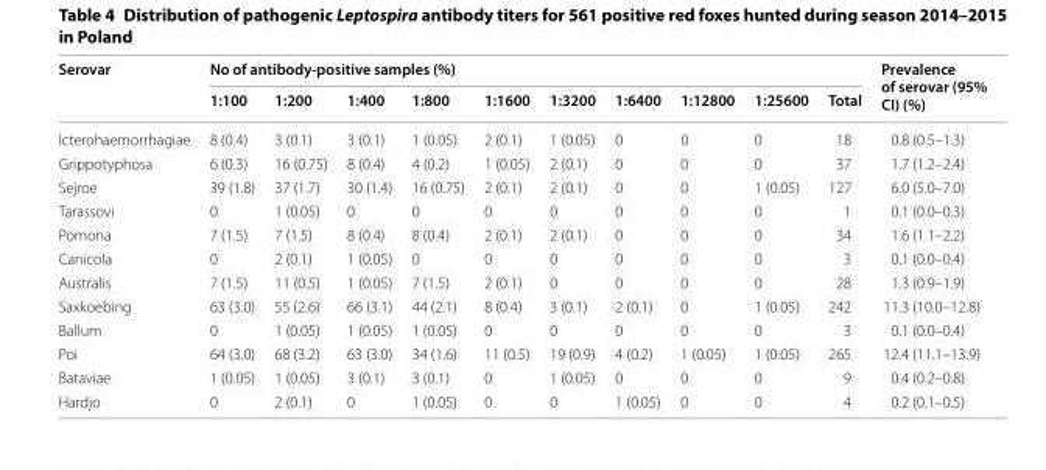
<table><thead><tr><td rowspan="2">Serovar</td><td colspan="10">No of antibody-positive samples (%)</td><td rowspan="2">Prevalence of serovar (95% CI) (%)</td></tr><tr><td>1:100</td><td>1:200</td><td>1:400</td><td>1:800</td><td>1:1600</td><td>1:3200</td><td>1:6400</td><td>1:12800</td><td>1:25600</td><td>Total</td></tr></thead><tbody><tr><td>Icterohaemorrhagiae</td><td>8 (0.4)</td><td>3 (0.1)</td><td>3 (0.1)</td><td>1 (0.05)</td><td>2 (0.1)</td><td>1 (0.05)</td><td>0</td><td>0</td><td>0</td><td>18</td><td>0.8 (0.5–1.3)</td></tr><tr><td>Grippotyphosa</td><td>6 (0.3)</td><td>16 (0.75)</td><td>8 (0.4)</td><td>4 (0.2)</td><td>1 (0.05)</td><td>2 (0.1)</td><td>0</td><td>0</td><td>0</td><td>37</td><td>1.7 (1.2–2.4)</td></tr><tr><td>Sejroe</td><td>39 (1.8)</td><td>37 (1.7)</td><td>30 (1.4)</td><td>16 (0.75)</td><td>2 (0.1)</td><td>2 (0.1)</td><td>0</td><td>0</td><td>1 (0.05)</td><td>127</td><td>6.0 (5.0–7.0)</td></tr><tr><td>Tarassovi</td><td>0</td><td>1 (0.05)</td><td>0</td><td>0</td><td>0</td><td>0</td><td>0</td><td>0</td><td>0</td><td>1</td><td>0.1 (0.0–0.3)</td></tr><tr><td>Pomona</td><td>7 (1.5)</td><td>7 (1.5)</td><td>8 (0.4)</td><td>8 (0.4)</td><td>2 (0.1)</td><td>2 (0.1)</td><td>0</td><td>0</td><td>0</td><td>34</td><td>1.6 (1.1–2.2)</td></tr><tr><td>Canicola</td><td>0</td><td>2 (0.1)</td><td>1 (0.05)</td><td>0</td><td>0</td><td>0</td><td>0</td><td>0</td><td>0</td><td>3</td><td>0.1 (0.0–0.4)</td></tr><tr><td>Australis</td><td>7 (1.5)</td><td>11 (0.5)</td><td>1 (0.05)</td><td>7 (1.5)</td><td>2 (0.1)</td><td>0</td><td>0</td><td>0</td><td>0</td><td>28</td><td>1.3 (0.9–1.9)</td></tr><tr><td>Saxkoebing</td><td>63 (3.0)</td><td>55 (2.6)</td><td>66 (3.1)</td><td>44 (2.1)</td><td>8 (0.4)</td><td>3 (0.1)</td><td>2 (0.1)</td><td>0</td><td>1 (0.05)</td><td>242</td><td>11.3 (10.0–12.8)</td></tr><tr><td>Ballum</td><td>0</td><td>1 (0.05)</td><td>1 (0.05)</td><td>1 (0.05)</td><td>0</td><td>0</td><td>0</td><td>0</td><td>0</td><td>3</td><td>0.1 (0.0–0.4)</td></tr><tr><td>Poi</td><td>64 (3.0)</td><td>68 (3.2)</td><td>63 (3.0)</td><td>34 (1.6)</td><td>11 (0.5)</td><td>19 (0.9)</td><td>4 (0.2)</td><td>1 (0.05)</td><td>1 (0.05)</td><td>265</td><td>12.4 (11.1–13.9)</td></tr><tr><td>Bataviae</td><td>1 (0.05)</td><td>1 (0.05)</td><td>3 (0.1)</td><td>3 (0.1)</td><td>0</td><td>1 (0.05)</td><td>0</td><td>0</td><td>0</td><td>9</td><td>0.4 (0.2–0.8)</td></tr><tr><td>Hardjo</td><td>0</td><td>2 (0.1)</td><td>0</td><td>1 (0.05)</td><td>0</td><td>0</td><td>1 (0.05)</td><td>0</td><td>0</td><td>4</td><td>0.2 (0.1–0.5)</td></tr></tbody></table>